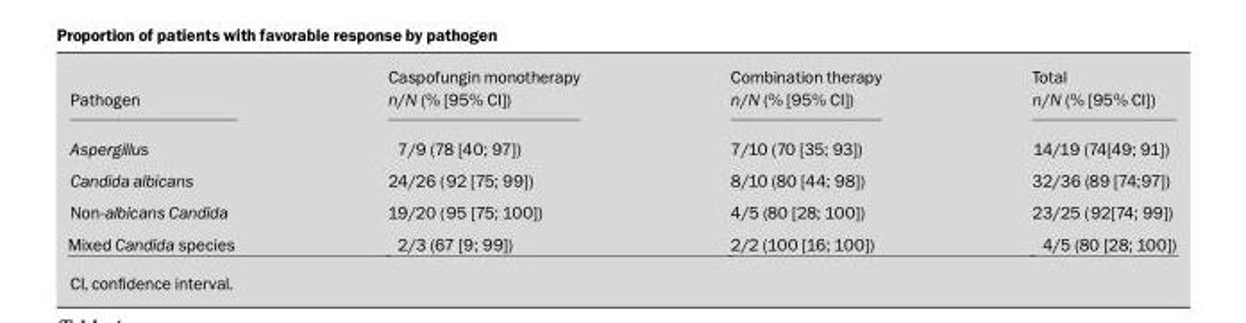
<table><thead><tr><td>Pathogen</td><td>Caspofungin monotherapy n/N (% [95% CI])</td><td>Combination therapy n/N (% [95% CI])</td><td>Total n/N (% [95% CI])</td></tr></thead><tbody><tr><td>Aspergillus</td><td>7/9 (78 [40; 97])</td><td>7/10 (70 [35; 93])</td><td>14/19 (74[49; 91])</td></tr><tr><td>Candida albicans</td><td>24/26 (92 [75; 99])</td><td>8/10 (80 [44; 98])</td><td>32/36 (89 [74;97])</td></tr><tr><td>Non-albicans Candida</td><td>19/20 (95 [75; 100])</td><td>4/5 (80 [28; 100])</td><td>23/25 (92[74; 99])</td></tr><tr><td>Mixed Candida species</td><td>2/3 (67 [9; 99])</td><td>2/2 (100 [16; 100])</td><td>4/5 (80 [28; 100])</td></tr></tbody></table>